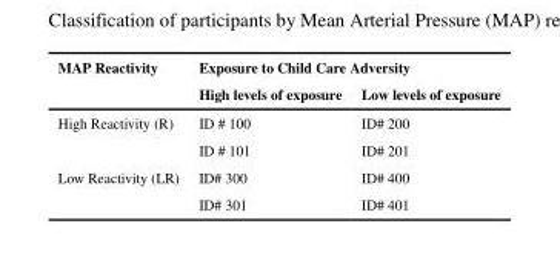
<table><thead><tr><td rowspan="2">MAP Reactivity</td><td colspan="2">Exposure to Child Care Adversity</td></tr><tr><td>High levels of exposure</td><td>Low levels of exposure</td></tr></thead><tbody><tr><td rowspan="2">High Reactivity (R)</td><td>ID # 100</td><td>ID# 200</td></tr><tr><td>ID # 101</td><td>ID# 201</td></tr><tr><td rowspan="2">Low Reactivity (LR)</td><td>ID# 300</td><td>ID# 400</td></tr><tr><td>ID# 301</td><td>ID# 401</td></tr></tbody></table>